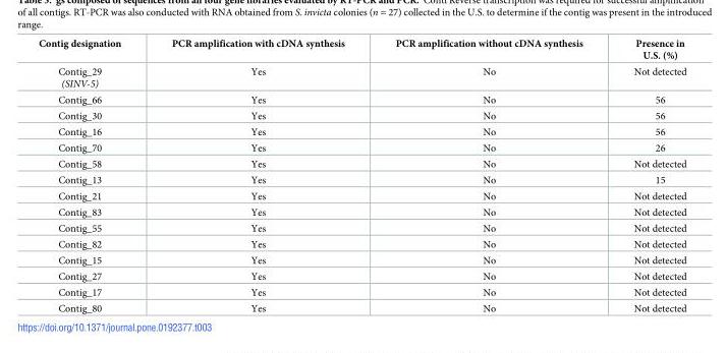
<table><thead><tr><td>Contig designation</td><td>PCR amplification with cDNA synthesis</td><td>PCR amplification without cDNA synthesis</td><td>Presence in U.S. (%)</td></tr></thead><tbody><tr><td>Contig_29 (SINV-5)</td><td>Yes</td><td>No</td><td>Not detected</td></tr><tr><td>Contig_66</td><td>Yes</td><td>No</td><td>56</td></tr><tr><td>Contig_30</td><td>Yes</td><td>No</td><td>56</td></tr><tr><td>Contig_16</td><td>Yes</td><td>No</td><td>56</td></tr><tr><td>Contig_70</td><td>Yes</td><td>No</td><td>26</td></tr><tr><td>Contig_58</td><td>Yes</td><td>No</td><td>Not detected</td></tr><tr><td>Contig_13</td><td>Yes</td><td>No</td><td>15</td></tr><tr><td>Contig_21</td><td>Yes</td><td>No</td><td>Not detected</td></tr><tr><td>Contig_83</td><td>Yes</td><td>No</td><td>Not detected</td></tr><tr><td>Contig_55</td><td>Yes</td><td>No</td><td>Not detected</td></tr><tr><td>Contig_82</td><td>Yes</td><td>No</td><td>Not detected</td></tr><tr><td>Contig_15</td><td>Yes</td><td>No</td><td>Not detected</td></tr><tr><td>Contig_27</td><td>Yes</td><td>No</td><td>Not detected</td></tr><tr><td>Contig_17</td><td>Yes</td><td>No</td><td>Not detected</td></tr><tr><td>Contig_80</td><td>Yes</td><td>No</td><td>Not detected</td></tr></tbody></table>